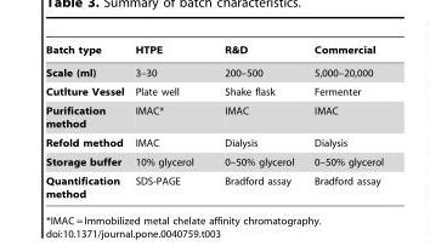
<table><thead><tr><td>Batch type</td><td>HTPE</td><td>R&amp;D</td><td>Commercial</td></tr></thead><tbody><tr><td>Scale (ml)</td><td>3–30</td><td>200–500</td><td>5,000–20,000</td></tr><tr><td>Cutlture Vessel</td><td>Plate well</td><td>Shake flask</td><td>Fermenter</td></tr><tr><td>Purification method</td><td>IMAC*</td><td>IMAC</td><td>IMAC</td></tr><tr><td>Refold method</td><td>IMAC</td><td>Dialysis</td><td>Dialysis</td></tr><tr><td>Storage buffer</td><td>10% glycerol</td><td>0–50% glycerol</td><td>0–50% glycerol</td></tr><tr><td>Quantification method</td><td>SDS-PAGE</td><td>Bradford assay</td><td>Bradford assay</td></tr></tbody></table>